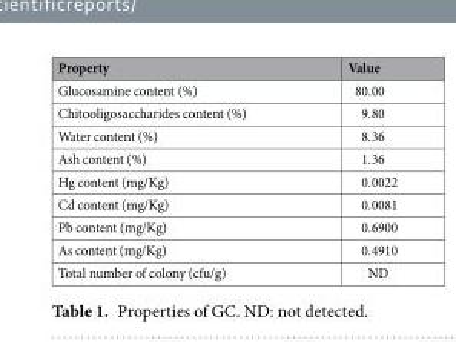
<table><thead><tr><td>Property</td><td>Value</td></tr></thead><tbody><tr><td>Glucosamine content (%)</td><td>80.00</td></tr><tr><td>Chitooligosaccharides content (%)</td><td>9.80</td></tr><tr><td>Water content (%)</td><td>8.36</td></tr><tr><td>Ash content (%)</td><td>1.36</td></tr><tr><td>Hg content (mg/Kg)</td><td>0.0022</td></tr><tr><td>Cd content (mg/Kg)</td><td>0.0081</td></tr><tr><td>Pb content (mg/Kg)</td><td>0.6900</td></tr><tr><td>As content (mg/Kg)</td><td>0.4910</td></tr><tr><td>Total number of colony (cfu/g)</td><td>ND</td></tr></tbody></table>